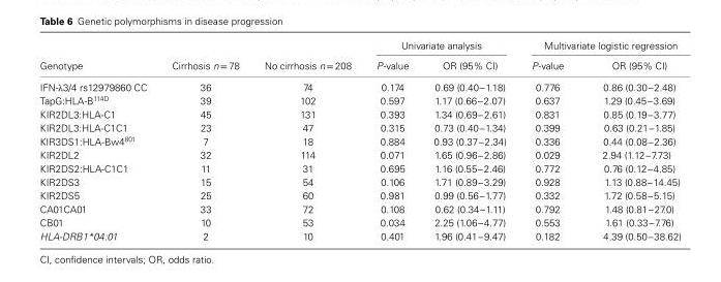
<table><thead><tr><td rowspan="2">Genotype</td><td rowspan="2">Cirrhosis n = 78</td><td rowspan="2">No cirrhosis n = 208</td><td colspan="2">Univariate analysis</td><td colspan="2">Multivariate logistic regression</td></tr><tr><td>P-value</td><td>OR (95% CI)</td><td>P-value</td><td>OR (95% CI)</td></tr></thead><tbody><tr><td>IFN-λ3/4 rs12979860 CC</td><td>36</td><td>74</td><td>0.174</td><td>0.69 (0.40–1.18)</td><td>0.776</td><td>0.86 (0.30–2.48)</td></tr><tr><td>TapG:HLA-B<sup>114D</sup></td><td>39</td><td>102</td><td>0.597</td><td>1.17 (0.66–2.07)</td><td>0.637</td><td>1.29 (0.45–3.69)</td></tr><tr><td>KIR2DL3:HLA-C1</td><td>45</td><td>131</td><td>0.393</td><td>1.34 (0.69–2.61)</td><td>0.831</td><td>0.85 (0.19–3.77)</td></tr><tr><td>KIR2DL3:HLA-C1C1</td><td>23</td><td>47</td><td>0.315</td><td>0.73 (0.40–1.34)</td><td>0.399</td><td>0.63 (0.21–1.85)</td></tr><tr><td>KIR3DS1:HLA-Bw4<sup>801</sup></td><td>7</td><td>18</td><td>0.884</td><td>0.93 (0.37–2.34)</td><td>0.336</td><td>0.44 (0.08–2.36)</td></tr><tr><td>KIR2DL2</td><td>32</td><td>114</td><td>0.071</td><td>1.65 (0.96–2.86)</td><td>0.029</td><td>2.94 (1.12–7.73)</td></tr><tr><td>KIR2DS2:HLA-C1C1</td><td>11</td><td>31</td><td>0.695</td><td>1.16 (0.55–2.46)</td><td>0.772</td><td>0.76 (0.12–4.85)</td></tr><tr><td>KIR2DS3</td><td>15</td><td>54</td><td>0.106</td><td>1.71 (0.89–3.29)</td><td>0.928</td><td>1.13 (0.88–14.45)</td></tr><tr><td>KIR2DS5</td><td>25</td><td>60</td><td>0.981</td><td>0.99 (0.56–1.77)</td><td>0.332</td><td>1.72 (0.58–5.15)</td></tr><tr><td>CA01CA01</td><td>33</td><td>72</td><td>0.108</td><td>0.62 (0.34–1.11)</td><td>0.792</td><td>1.48 (0.81–27.0)</td></tr><tr><td>CB01</td><td>10</td><td>53</td><td>0.034</td><td>2.25 (1.06–4.77)</td><td>0.553</td><td>1.61 (0.33–7.76)</td></tr><tr><td>HLA-DRB1*04:01</td><td>2</td><td>10</td><td>0.401</td><td>1.96 (0.41–9.47)</td><td>0.182</td><td>4.39 (0.50–38.62)</td></tr></tbody></table>